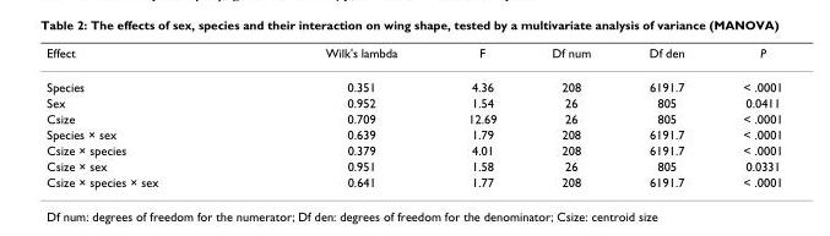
<table><thead><tr><td>Effect</td><td>Wilk&#x27;s lambda</td><td>F</td><td>Df num</td><td>Df den</td><td>P</td></tr></thead><tbody><tr><td>Species</td><td>0.351</td><td>4.36</td><td>208</td><td>6191.7</td><td>&lt; .0001</td></tr><tr><td>Sex</td><td>0.952</td><td>1.54</td><td>26</td><td>805</td><td>0.0411</td></tr><tr><td>Csize</td><td>0.709</td><td>12.69</td><td>26</td><td>805</td><td>&lt; .0001</td></tr><tr><td>Species × sex</td><td>0.639</td><td>1.79</td><td>208</td><td>6191.7</td><td>&lt; .0001</td></tr><tr><td>Csize × species</td><td>0.379</td><td>4.01</td><td>208</td><td>6191.7</td><td>&lt; .0001</td></tr><tr><td>Csize × sex</td><td>0.951</td><td>1.58</td><td>26</td><td>805</td><td>0.0331</td></tr><tr><td>Csize × species × sex</td><td>0.641</td><td>1.77</td><td>208</td><td>6191.7</td><td>&lt; .0001</td></tr></tbody></table>